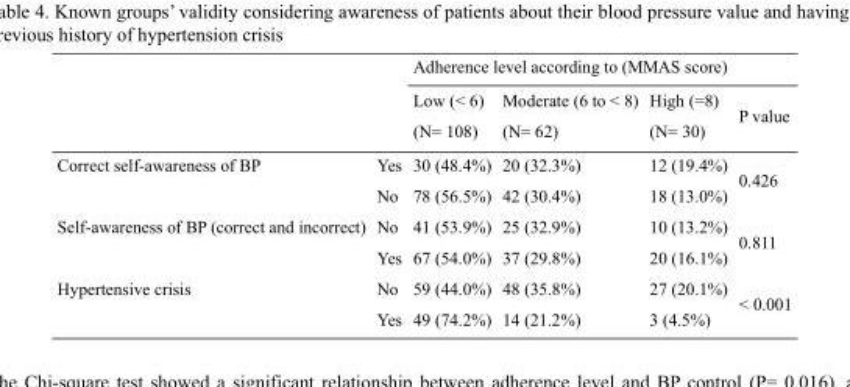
<table><thead><tr><td rowspan="2"></td><td rowspan="2"></td><td colspan="4">Adherence level according to (MMAS score)</td></tr><tr><td>Low (&lt; 6) (N= 108)</td><td>Moderate (6 to &lt; 8) (N= 62)</td><td>High (=8) (N= 30)</td><td>P value</td></tr></thead><tbody><tr><td rowspan="2">Correct self-awareness of BP</td><td>Yes</td><td>30 (48.4%)</td><td>20 (32.3%)</td><td>12 (19.4%)</td><td rowspan="2">0.426</td></tr><tr><td>No</td><td>78 (56.5%)</td><td>42 (30.4%)</td><td>18 (13.0%)</td></tr><tr><td rowspan="2">Self-awareness of BP (correct and incorrect)</td><td>No</td><td>41 (53.9%)</td><td>25 (32.9%)</td><td>10 (13.2%)</td><td rowspan="2">0.811</td></tr><tr><td>Yes</td><td>67 (54.0%)</td><td>37 (29.8%)</td><td>20 (16.1%)</td></tr><tr><td rowspan="2">Hypertensive crisis</td><td>No</td><td>59 (44.0%)</td><td>48 (35.8%)</td><td>27 (20.1%)</td><td rowspan="2">&lt; 0.001</td></tr><tr><td>Yes</td><td>49 (74.2%)</td><td>14 (21.2%)</td><td>3 (4.5%)</td></tr></tbody></table>